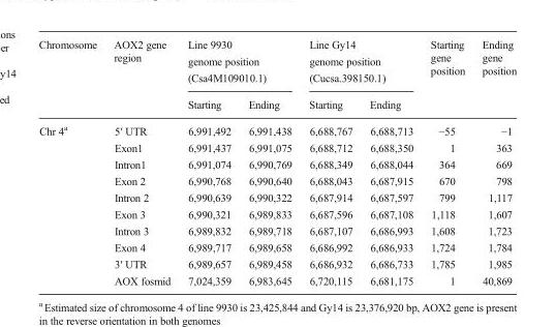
<table><thead><tr><td rowspan="2">Chromosome</td><td rowspan="2">AOX2 gene region</td><td colspan="2">Line 9930 genome position (Csa4M109010.1)</td><td colspan="2">Line Gy14 genome position (Cucsa.398150.1)</td><td rowspan="2">Starting gene position</td><td rowspan="2">Ending gene position</td></tr><tr><td>Starting</td><td>Ending</td><td>Starting</td><td>Ending</td></tr></thead><tbody><tr><td rowspan="10">Chr 4<sup>a</sup></td><td>5′ UTR</td><td>6,991,492</td><td>6,991,438</td><td>6,688,767</td><td>6,688,713</td><td>−55</td><td>−1</td></tr><tr><td>Exon1</td><td>6,991,437</td><td>6,991,075</td><td>6,688,712</td><td>6,688,350</td><td>1</td><td>363</td></tr><tr><td>Intron1</td><td>6,991,074</td><td>6,990,769</td><td>6,688,349</td><td>6,688,044</td><td>364</td><td>669</td></tr><tr><td>Exon 2</td><td>6,990,768</td><td>6,990,640</td><td>6,688,043</td><td>6,687,915</td><td>670</td><td>798</td></tr><tr><td>Intron 2</td><td>6,990,639</td><td>6,990,322</td><td>6,687,914</td><td>6,687,597</td><td>799</td><td>1,117</td></tr><tr><td>Exon 3</td><td>6,990,321</td><td>6,989,833</td><td>6,687,596</td><td>6,687,108</td><td>1,118</td><td>1,607</td></tr><tr><td>Intron 3</td><td>6,989,832</td><td>6,989,718</td><td>6,687,107</td><td>6,686,993</td><td>1,608</td><td>1,723</td></tr><tr><td>Exon 4</td><td>6,989,717</td><td>6,989,658</td><td>6,686,992</td><td>6,686,933</td><td>1,724</td><td>1,784</td></tr><tr><td>3′ UTR</td><td>6,989,657</td><td>6,989,458</td><td>6,686,932</td><td>6,686,733</td><td>1,785</td><td>1,985</td></tr><tr><td>AOX fosmid</td><td>7,024,359</td><td>6,983,645</td><td>6,720,115</td><td>6,681,175</td><td>1</td><td>40,869</td></tr></tbody></table>